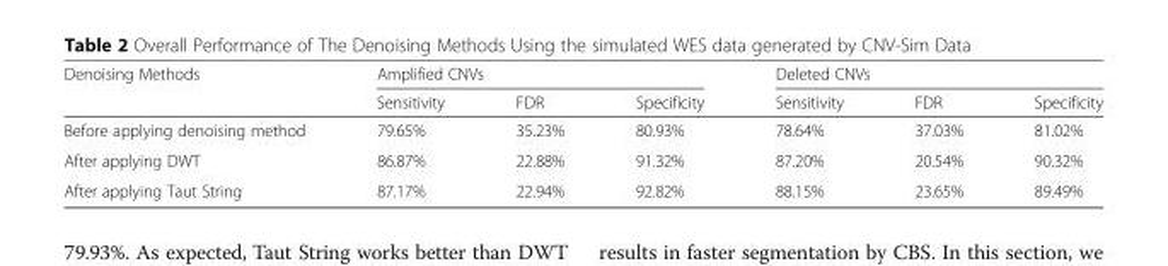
<table><thead><tr><td rowspan="2">Denoising Methods</td><td colspan="3">Amplified CNVs</td><td colspan="3">Deleted CNVs</td></tr><tr><td>Sensitivity</td><td>FDR</td><td>Specificity</td><td>Sensitivity</td><td>FDR</td><td>Specificity</td></tr></thead><tbody><tr><td>Before applying denoising method</td><td>79.65%</td><td>35.23%</td><td>80.93%</td><td>78.64%</td><td>37.03%</td><td>81.02%</td></tr><tr><td>After applying DWT</td><td>86.87%</td><td>22.88%</td><td>91.32%</td><td>87.20%</td><td>20.54%</td><td>90.32%</td></tr><tr><td>After applying Taut String</td><td>87.17%</td><td>22.94%</td><td>92.82%</td><td>88.15%</td><td>23.65%</td><td>89.49%</td></tr></tbody></table>